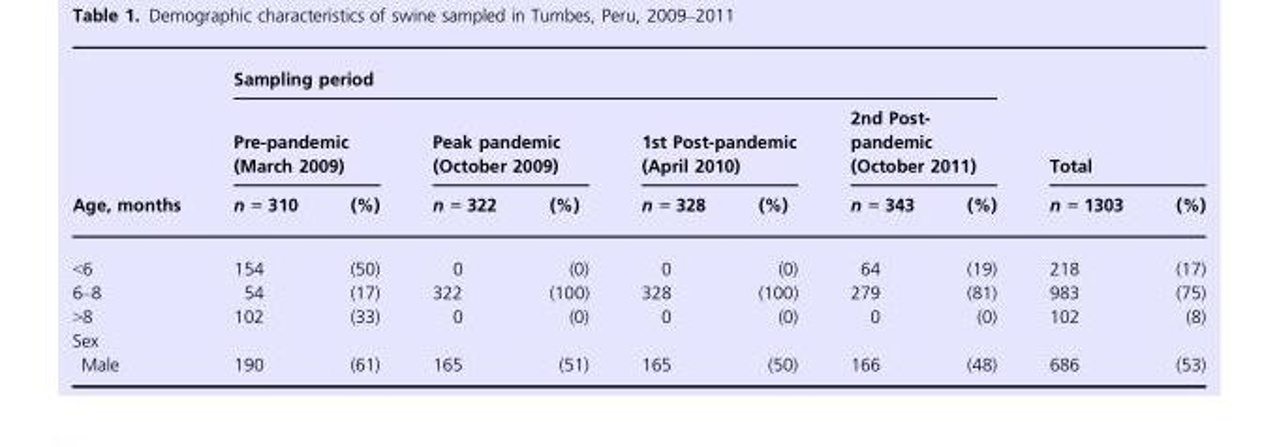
<table><thead><tr><td rowspan="3">Age, months</td><td colspan="8">Sampling period</td><td rowspan="2" colspan="2">Total</td></tr><tr><td colspan="2">Pre-pandemic (March 2009)</td><td colspan="2">Peak pandemic (October 2009)</td><td colspan="2">1st Post-pandemic (April 2010)</td><td colspan="2">2nd Post- pandemic (October 2011)</td></tr><tr><td>n = 310</td><td>(%)</td><td>n = 322</td><td>(%)</td><td>n = 328</td><td>(%)</td><td>n = 343</td><td>(%)</td><td>n = 1303</td><td>(%)</td></tr></thead><tbody><tr><td>&lt;6</td><td>154</td><td>(50)</td><td>0</td><td>(0)</td><td>0</td><td>(0)</td><td>64</td><td>(19)</td><td>218</td><td>(17)</td></tr><tr><td>6–8</td><td>54</td><td>(17)</td><td>322</td><td>(100)</td><td>328</td><td>(100)</td><td>279</td><td>(81)</td><td>983</td><td>(75)</td></tr><tr><td>&gt;8</td><td>102</td><td>(33)</td><td>0</td><td>(0)</td><td>0</td><td>(0)</td><td>0</td><td>(0)</td><td>102</td><td>(8)</td></tr><tr><td colspan="11">Sex</td></tr><tr><td>Male</td><td>190</td><td>(61)</td><td>165</td><td>(51)</td><td>165</td><td>(50)</td><td>166</td><td>(48)</td><td>686</td><td>(53)</td></tr></tbody></table>